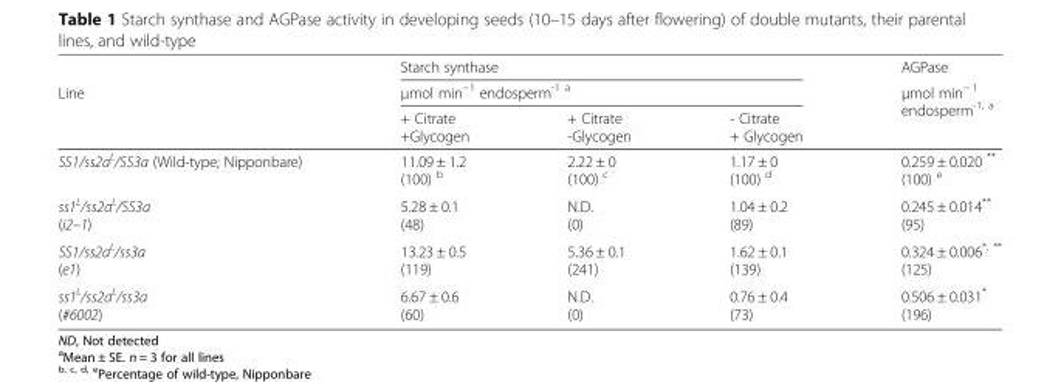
<table><thead><tr><td rowspan="3">Line</td><td rowspan="2" colspan="3">Starch synthase μmol min<sup>−1</sup> endosperm<sup>-1 a</sup></td><td rowspan="3">AGPase μmol min<sup>− 1</sup> endosperm<sup>-1, a</sup></td></tr><tr></tr><tr><td>+ Citrate +Glycogen</td><td>+ Citrate -Glycogen</td><td>- Citrate + Glycogen</td></tr></thead><tbody><tr><td>SS1/ss2a<sup>L</sup>/SS3a (Wild-type; Nipponbare)</td><td>11.09 ± 1.2 (100) <sup>b</sup></td><td>2.22 ± 0 (100) <sup>c</sup></td><td>1.17 ± 0 (100) <sup>d</sup></td><td>0.259 ± 0.020 ** (100) <sup>e</sup></td></tr><tr><td>ss1<sup>L</sup>/ss2a<sup>L</sup>/SS3a (i2–1)</td><td>5.28 ± 0.1 (48)</td><td>N.D. (0)</td><td>1.04 ± 0.2 (89)</td><td>0.245 ± 0.014** (95)</td></tr><tr><td>SS1/ss2a<sup>L</sup>/ss3a (e1)</td><td>13.23 ± 0.5 (119)</td><td>5.36 ± 0.1 (241)</td><td>1.62 ± 0.1 (139)</td><td>0.324 ± 0.006<sup>*, **</sup> (125)</td></tr><tr><td>ss1<sup>L</sup>/ss2a<sup>L</sup>/ss3a (#6002)</td><td>6.67 ± 0.6 (60)</td><td>N.D. (0)</td><td>0.76 ± 0.4 (73)</td><td>0.506 ± 0.031* (196)</td></tr></tbody></table>